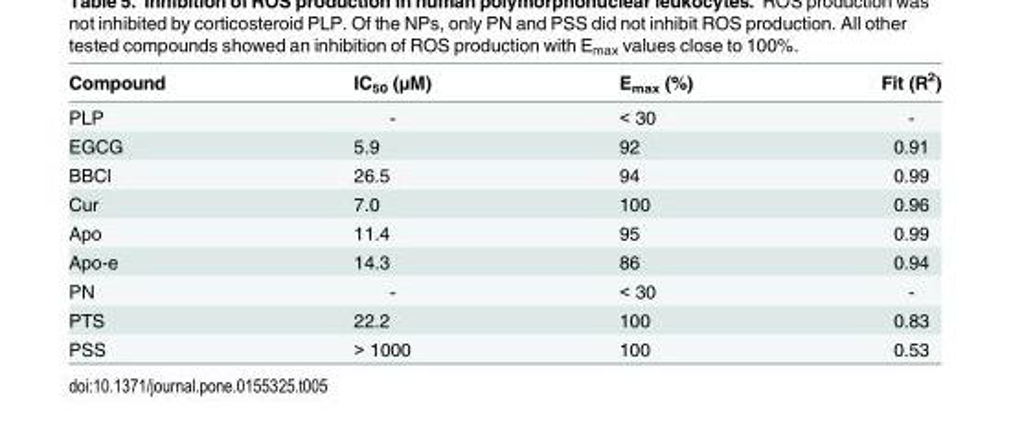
<table><thead><tr><td>Compound</td><td>IC<sub>50</sub> (μM)</td><td>E<sub>max</sub> (%)</td><td>Fit (R<sup>2</sup>)</td></tr></thead><tbody><tr><td>PLP</td><td>-</td><td>&lt; 30</td><td>-</td></tr><tr><td>EGCG</td><td>5.9</td><td>92</td><td>0.91</td></tr><tr><td>BBCl</td><td>26.5</td><td>94</td><td>0.99</td></tr><tr><td>Cur</td><td>7.0</td><td>100</td><td>0.96</td></tr><tr><td>Apo</td><td>11.4</td><td>95</td><td>0.99</td></tr><tr><td>Apo-e</td><td>14.3</td><td>86</td><td>0.94</td></tr><tr><td>PN</td><td>-</td><td>&lt; 30</td><td>-</td></tr><tr><td>PTS</td><td>22.2</td><td>100</td><td>0.83</td></tr><tr><td>PSS</td><td>&gt; 1000</td><td>100</td><td>0.53</td></tr></tbody></table>